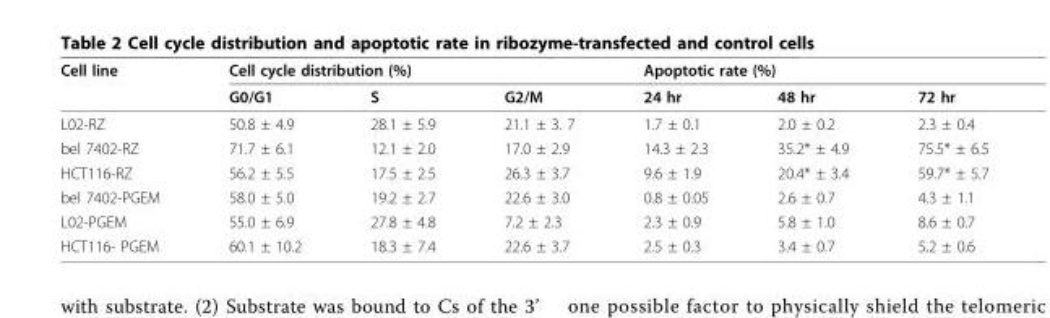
<table><thead><tr><td rowspan="2">Cell line</td><td colspan="3">Cell cycle distribution (%)</td><td colspan="3">Apoptotic rate (%)</td></tr><tr><td>G0/G1</td><td>S</td><td>G2/M</td><td>24 hr</td><td>48 hr</td><td>72 hr</td></tr></thead><tbody><tr><td>L02-RZ</td><td>50.8 ± 4.9</td><td>28.1 ± 5.9</td><td>21.1 ± 3. 7</td><td>1.7 ± 0.1</td><td>2.0 ± 0.2</td><td>2.3 ± 0.4</td></tr><tr><td>bel 7402-RZ</td><td>71.7 ± 6.1</td><td>12.1 ± 2.0</td><td>17.0 ± 2.9</td><td>14.3 ± 2.3</td><td>35.2* ± 4.9</td><td>75.5* ± 6.5</td></tr><tr><td>HCT116-RZ</td><td>56.2 ± 5.5</td><td>17.5 ± 2.5</td><td>26.3 ± 3.7</td><td>9.6 ± 1.9</td><td>20.4* ± 3.4</td><td>59.7* ± 5.7</td></tr><tr><td>bel 7402-PGEM</td><td>58.0 ± 5.0</td><td>19.2 ± 2.7</td><td>22.6 ± 3.0</td><td>0.8 ± 0.05</td><td>2.6 ± 0.7</td><td>4.3 ± 1.1</td></tr><tr><td>L02-PGEM</td><td>55.0 ± 6.9</td><td>27.8 ± 4.8</td><td>7.2 ± 2.3</td><td>2.3 ± 0.9</td><td>5.8 ± 1.0</td><td>8.6 ± 0.7</td></tr><tr><td>HCT116- PGEM</td><td>60.1 ± 10.2</td><td>18.3 ± 7.4</td><td>22.6 ± 3.7</td><td>2.5 ± 0.3</td><td>3.4 ± 0.7</td><td>5.2 ± 0.6</td></tr></tbody></table>